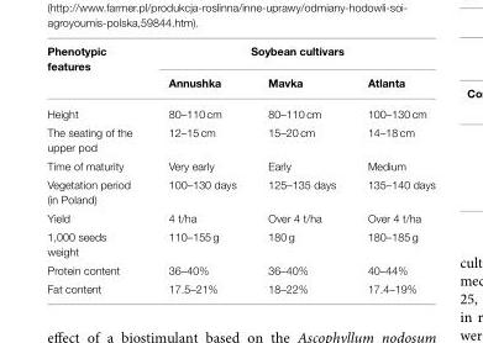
<table><thead><tr><td rowspan="2">Phenotypic features</td><td colspan="3">Soybean cultivars</td></tr><tr><td>Annushka</td><td>Mavka</td><td>Atlanta</td></tr></thead><tbody><tr><td>Height</td><td>80–110 cm</td><td>80–110 cm</td><td>100–130 cm</td></tr><tr><td>The seating of the upper pod</td><td>12–15 cm</td><td>15–20 cm</td><td>14–18 cm</td></tr><tr><td>Time of maturity</td><td>Very early</td><td>Early</td><td>Medium</td></tr><tr><td>Vegetation period (in Poland)</td><td>100–130 days</td><td>125–135 days</td><td>135–140 days</td></tr><tr><td>Yield</td><td>4 t/ha</td><td>Over 4 t/ha</td><td>Over 4 t/ha</td></tr><tr><td>1,000 seeds weight</td><td>110–155 g</td><td>180 g</td><td>180–185 g</td></tr><tr><td>Protein content</td><td>36–40%</td><td>36–40%</td><td>40–44%</td></tr><tr><td>Fat content</td><td>17.5–21%</td><td>18–22%</td><td>17.4–19%</td></tr></tbody></table>